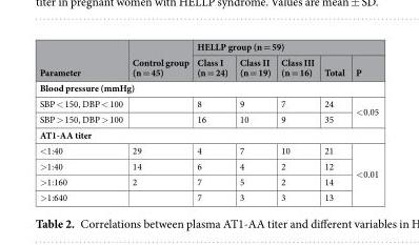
<table><thead><tr><td rowspan="2">Parameter</td><td rowspan="2">Control group (n = 45)</td><td colspan="5">HELLP group (n = 59)</td></tr><tr><td>Class I (n = 24)</td><td>Class II (n = 19)</td><td>Class III (n = 16)</td><td>Total</td><td>P</td></tr></thead><tbody><tr><td colspan="7">Blood pressure (mmHg)</td></tr><tr><td>SBP &lt; 150, DBP &lt; 100</td><td></td><td>8</td><td>9</td><td>7</td><td>24</td><td rowspan="2">&lt;0.05</td></tr><tr><td>SBP &gt; 150, DBP &gt; 100</td><td></td><td>16</td><td>10</td><td>9</td><td>35</td></tr><tr><td colspan="7">AT1-AA titer</td></tr><tr><td>&lt;1:40</td><td>29</td><td>4</td><td>7</td><td>10</td><td>21</td><td rowspan="4">&lt;0.01</td></tr><tr><td>&gt;1:40</td><td>14</td><td>6</td><td>4</td><td>2</td><td>12</td></tr><tr><td>&gt;1:160</td><td>2</td><td>7</td><td>5</td><td>2</td><td>14</td></tr><tr><td>&gt;1:640</td><td></td><td>7</td><td>3</td><td>3</td><td>13</td></tr></tbody></table>